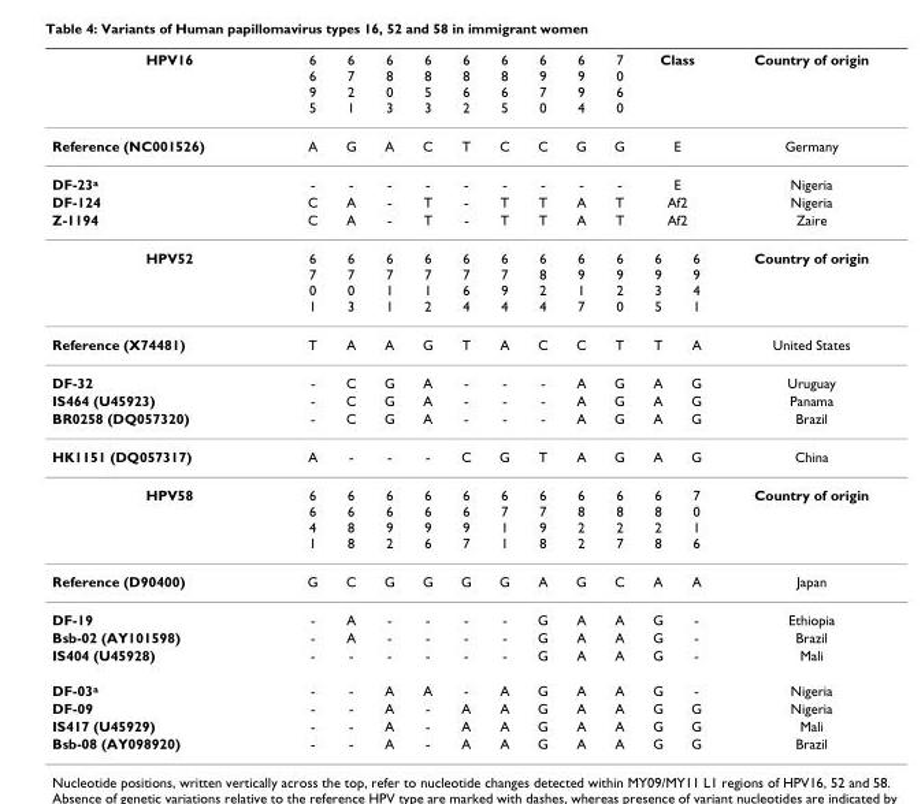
<table><thead><tr><td>HPV16</td><td>6 6 9 5</td><td>6 7 2 1</td><td>6 8 0 3</td><td>6 8 5 3</td><td>6 8 6 2</td><td>6 8 6 5</td><td>6 9 7 0</td><td>6 9 9 4</td><td>7 0 6 0</td><td colspan="2">Class</td><td>Country of origin</td></tr></thead><tbody><tr><td>Reference (NC001526)</td><td>A</td><td>G</td><td>A</td><td>C</td><td>T</td><td>C</td><td>C</td><td>G</td><td>G</td><td colspan="2">E</td><td>Germany</td></tr><tr><td>DF-23<sup>a</sup></td><td>-</td><td>-</td><td>-</td><td>-</td><td>-</td><td>-</td><td>-</td><td>-</td><td>-</td><td colspan="2">E</td><td>Nigeria</td></tr><tr><td>DF-124</td><td>C</td><td>A</td><td>-</td><td>T</td><td>-</td><td>T</td><td>T</td><td>A</td><td>T</td><td colspan="2">Af2</td><td>Nigeria</td></tr><tr><td>Z-1194</td><td>C</td><td>A</td><td>-</td><td>T</td><td>-</td><td>T</td><td>T</td><td>A</td><td>T</td><td colspan="2">Af2</td><td>Zaire</td></tr><tr><td>HPV52</td><td>6 7 0 1</td><td>6 7 0 3</td><td>6 7 1 1</td><td>6 7 1 2</td><td>6 7 6 4</td><td>6 7 9 4</td><td>6 8 2 4</td><td>6 9 1 7</td><td>6 9 2 0</td><td>6 9 3 5</td><td>6 9 4 1</td><td>Country of origin</td></tr><tr><td>Reference (X74481)</td><td>T</td><td>A</td><td>A</td><td>G</td><td>T</td><td>A</td><td>C</td><td>C</td><td>T</td><td>T</td><td>A</td><td>United States</td></tr><tr><td>DF-32</td><td>-</td><td>C</td><td>G</td><td>A</td><td>-</td><td>-</td><td>-</td><td>A</td><td>G</td><td>A</td><td>G</td><td>Uruguay</td></tr><tr><td>IS464 (U45923)</td><td>-</td><td>C</td><td>G</td><td>A</td><td>-</td><td>-</td><td>-</td><td>A</td><td>G</td><td>A</td><td>G</td><td>Panama</td></tr><tr><td>BR0258 (DQ057320)</td><td>-</td><td>C</td><td>G</td><td>A</td><td>-</td><td>-</td><td>-</td><td>A</td><td>G</td><td>A</td><td>G</td><td>Brazil</td></tr><tr><td>HK1151 (DQ057317)</td><td>A</td><td>-</td><td>-</td><td>-</td><td>C</td><td>G</td><td>T</td><td>A</td><td>G</td><td>A</td><td>G</td><td>China</td></tr><tr><td>HPV58</td><td>6 6 4 1</td><td>6 6 8 8</td><td>6 6 9 2</td><td>6 6 9 6</td><td>6 6 9 7</td><td>6 7 1 1</td><td>6 7 9 8</td><td>6 8 2 2</td><td>6 8 2 7</td><td>6 8 2 8</td><td>7 0 1 6</td><td>Country of origin</td></tr><tr><td>Reference (D90400)</td><td>G</td><td>C</td><td>G</td><td>G</td><td>G</td><td>G</td><td>A</td><td>G</td><td>C</td><td>A</td><td>A</td><td>Japan</td></tr><tr><td>DF-19</td><td>-</td><td>A</td><td>-</td><td>-</td><td>-</td><td>-</td><td>G</td><td>A</td><td>A</td><td>G</td><td>-</td><td>Ethiopia</td></tr><tr><td>Bsb-02 (AY101598)</td><td>-</td><td>A</td><td>-</td><td>-</td><td>-</td><td>-</td><td>G</td><td>A</td><td>A</td><td>G</td><td>-</td><td>Brazil</td></tr><tr><td>IS404 (U45928)</td><td>-</td><td>-</td><td>-</td><td>-</td><td>-</td><td>-</td><td>G</td><td>A</td><td>A</td><td>G</td><td>-</td><td>Mali</td></tr><tr><td>DF-03<sup>a</sup></td><td>-</td><td>-</td><td>A</td><td>A</td><td>-</td><td>A</td><td>G</td><td>A</td><td>A</td><td>G</td><td>-</td><td>Nigeria</td></tr><tr><td>DF-09</td><td>-</td><td>-</td><td>A</td><td>-</td><td>A</td><td>A</td><td>G</td><td>A</td><td>A</td><td>G</td><td>G</td><td>Nigeria</td></tr><tr><td>IS417 (U45929)</td><td>-</td><td>-</td><td>A</td><td>-</td><td>A</td><td>A</td><td>G</td><td>A</td><td>A</td><td>G</td><td>G</td><td>Mali</td></tr><tr><td>Bsb-08 (AY098920)</td><td>-</td><td>-</td><td>A</td><td>-</td><td>A</td><td>A</td><td>G</td><td>A</td><td>A</td><td>G</td><td>G</td><td>Brazil</td></tr></tbody></table>